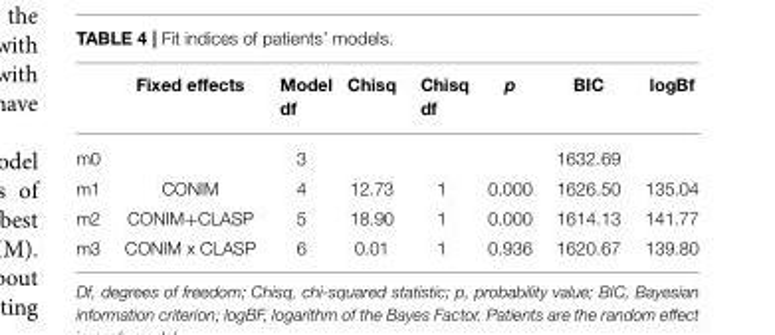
<table><thead><tr><td></td><td>Fixed effects</td><td>Model df</td><td>Chisq</td><td>Chisq df</td><td>p</td><td>BIC</td><td>logBf</td></tr></thead><tbody><tr><td>m0</td><td></td><td>3</td><td></td><td></td><td></td><td>1632.69</td><td></td></tr><tr><td>m1</td><td>CONIM</td><td>4</td><td>12.73</td><td>1</td><td>0.000</td><td>1626.50</td><td>135.04</td></tr><tr><td>m2</td><td>CONIM+CLASP</td><td>5</td><td>18.90</td><td>1</td><td>0.000</td><td>1614.13</td><td>141.77</td></tr><tr><td>m3</td><td>CONIM x CLASP</td><td>6</td><td>0.01</td><td>1</td><td>0.936</td><td>1620.67</td><td>139.80</td></tr></tbody></table>